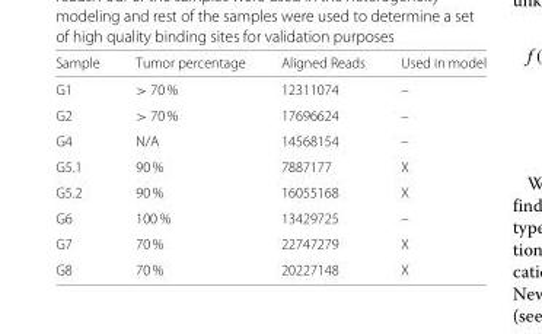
<table><thead><tr><td>Sample</td><td>Tumor percentage</td><td>Aligned Reads</td><td>Used in model</td></tr></thead><tbody><tr><td>G1</td><td>&gt; 70 %</td><td>12311074</td><td>–</td></tr><tr><td>G2</td><td>&gt; 70 %</td><td>17696624</td><td>–</td></tr><tr><td>G4</td><td>N/A</td><td>14568154</td><td>–</td></tr><tr><td>G5.1</td><td>90 %</td><td>7887177</td><td>X</td></tr><tr><td>G5.2</td><td>90 %</td><td>16055168</td><td>X</td></tr><tr><td>G6</td><td>100 %</td><td>13429725</td><td>–</td></tr><tr><td>G7</td><td>70 %</td><td>22747279</td><td>X</td></tr><tr><td>G8</td><td>70 %</td><td>20227148</td><td>X</td></tr></tbody></table>